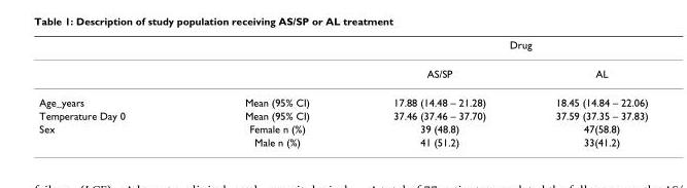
<table><thead><tr><td rowspan="2"></td><td rowspan="2"></td><td colspan="2">Drug</td></tr><tr><td>AS/SP</td><td>AL</td></tr></thead><tbody><tr><td>Age_years</td><td>Mean (95% CI)</td><td>17.88 (14.48 – 21.28)</td><td>18.45 (14.84 – 22.06)</td></tr><tr><td>Temperature Day 0</td><td>Mean (95% CI)</td><td>37.46 (37.46 – 37.70)</td><td>37.59 (37.35 – 37.83)</td></tr><tr><td rowspan="2">Sex</td><td>Female n (%)</td><td>39 (48.8)</td><td>47(58.8)</td></tr><tr><td>Male n (%)</td><td>41 (51.2)</td><td>33(41.2)</td></tr></tbody></table>